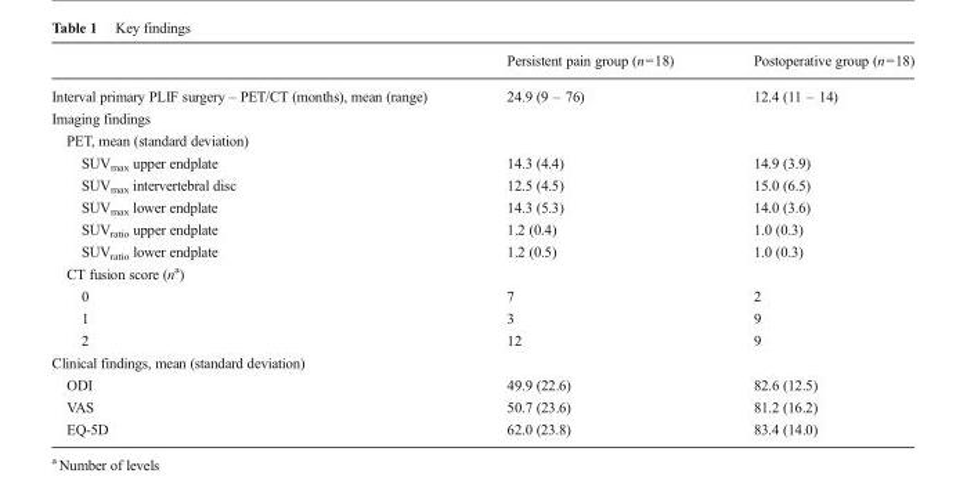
<table><thead><tr><td></td><td>Persistent pain group (n=18)</td><td>Postoperative group (n=18)</td></tr></thead><tbody><tr><td>Interval primary PLIF surgery – PET/CT (months), mean (range)</td><td>24.9 (9 – 76)</td><td>12.4 (11 – 14)</td></tr><tr><td colspan="3">Imaging findings</td></tr><tr><td colspan="3">PET, mean (standard deviation)</td></tr><tr><td>SUV<sub>max</sub> upper endplate</td><td>14.3 (4.4)</td><td>14.9 (3.9)</td></tr><tr><td>SUV<sub>max</sub> intervertebral disc</td><td>12.5 (4.5)</td><td>15.0 (6.5)</td></tr><tr><td>SUV<sub>max</sub> lower endplate</td><td>14.3 (5.3)</td><td>14.0 (3.6)</td></tr><tr><td>SUV<sub>ratio</sub> upper endplate</td><td>1.2 (0.4)</td><td>1.0 (0.3)</td></tr><tr><td>SUV<sub>ratio</sub> lower endplate</td><td>1.2 (0.5)</td><td>1.0 (0.3)</td></tr><tr><td colspan="3">CT fusion score (n<sup>a</sup>)</td></tr><tr><td>0</td><td>7</td><td>2</td></tr><tr><td>1</td><td>3</td><td>9</td></tr><tr><td>2</td><td>12</td><td>9</td></tr><tr><td colspan="3">Clinical findings, mean (standard deviation)</td></tr><tr><td>ODI</td><td>49.9 (22.6)</td><td>82.6 (12.5)</td></tr><tr><td>VAS</td><td>50.7 (23.6)</td><td>81.2 (16.2)</td></tr><tr><td>EQ-5D</td><td>62.0 (23.8)</td><td>83.4 (14.0)</td></tr></tbody></table>